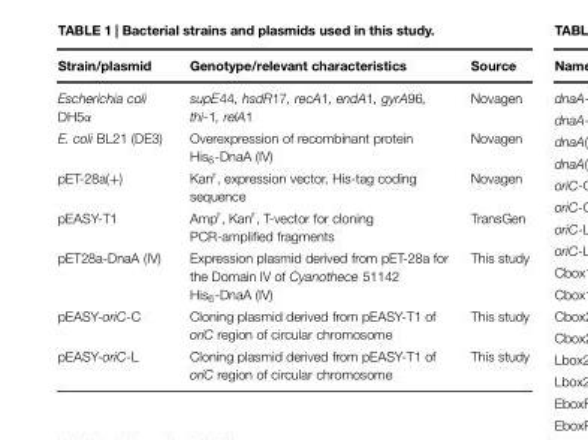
<table><thead><tr><td>Strain/plasmid</td><td>Genotype/relevant characteristics</td><td>Source</td></tr></thead><tbody><tr><td>Escherichia coli DH5α</td><td>supE44, hsdR17, recA1, endA1, gyrA96, thi-1, relA1</td><td>Novagen</td></tr><tr><td>E. coli BL21 (DE3)</td><td>Overexpression of recombinant protein His<sub>6</sub>-DnaA (IV)</td><td>Novagen</td></tr><tr><td>pET-28a(+)</td><td>Kan<sup>r</sup>, expression vector, His-tag coding sequence</td><td>Novagen</td></tr><tr><td>pEASY-T1</td><td>Amp<sup>r</sup>, Kan<sup>r</sup>, T-vector for cloning PCR-amplified fragments</td><td>TransGen</td></tr><tr><td>pET28a-DnaA (IV)</td><td>Expression plasmid derived from pET-28a for the Domain IV of Cyanothece 51142 His<sub>6</sub>-DnaA (IV)</td><td>This study</td></tr><tr><td>pEASY-oriC-C</td><td>Cloning plasmid derived from pEASY-T1 of oriC region of circular chromosome</td><td>This study</td></tr><tr><td>pEASY-oriC-L</td><td>Cloning plasmid derived from pEASY-T1 of oriC region of circular chromosome</td><td>This study</td></tr></tbody></table>